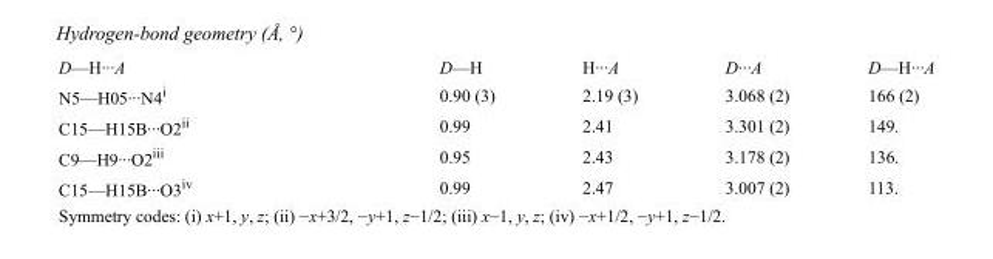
<table><tbody><tr><td>D—H···A</td><td>D—H</td><td>H···A</td><td>D···A</td><td>D—H···A</td></tr><tr><td>N5—H05···N4<sup>i</sup></td><td>0.90 (3)</td><td>2.19 (3)</td><td>3.068 (2)</td><td>166 (2)</td></tr><tr><td>C15—H15B···O2<sup>ii</sup></td><td>0.99</td><td>2.41</td><td>3.301 (2)</td><td>149.</td></tr><tr><td>C9—H9···O2<sup>iii</sup></td><td>0.95</td><td>2.43</td><td>3.178 (2)</td><td>136.</td></tr><tr><td>C15—H15B···O3<sup>iv</sup></td><td>0.99</td><td>2.47</td><td>3.007 (2)</td><td>113.</td></tr></tbody></table>